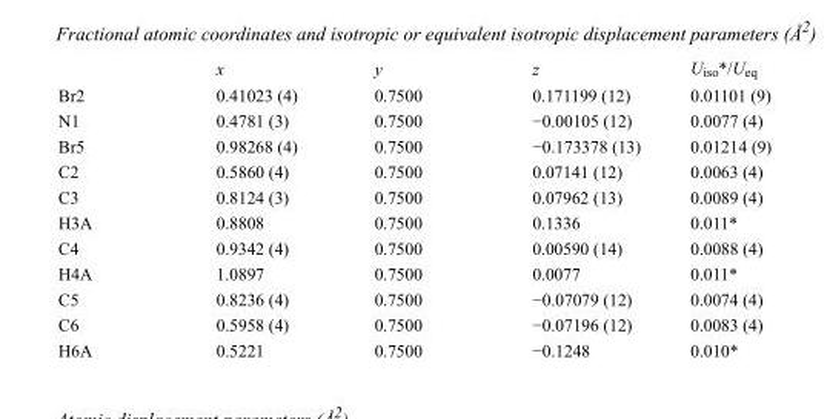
<table><thead><tr><td></td><td>x</td><td>y</td><td>z</td><td>U<sub>iso</sub>*/U<sub>eq</sub></td></tr></thead><tbody><tr><td>Br2</td><td>0.41023 (4)</td><td>0.7500</td><td>0.171199 (12)</td><td>0.01101 (9)</td></tr><tr><td>N1</td><td>0.4781 (3)</td><td>0.7500</td><td>−0.00105 (12)</td><td>0.0077 (4)</td></tr><tr><td>Br5</td><td>0.98268 (4)</td><td>0.7500</td><td>−0.173378 (13)</td><td>0.01214 (9)</td></tr><tr><td>C2</td><td>0.5860 (4)</td><td>0.7500</td><td>0.07141 (12)</td><td>0.0063 (4)</td></tr><tr><td>C3</td><td>0.8124 (3)</td><td>0.7500</td><td>0.07962 (13)</td><td>0.0089 (4)</td></tr><tr><td>H3A</td><td>0.8808</td><td>0.7500</td><td>0.1336</td><td>0.011*</td></tr><tr><td>C4</td><td>0.9342 (4)</td><td>0.7500</td><td>0.00590 (14)</td><td>0.0088 (4)</td></tr><tr><td>H4A</td><td>1.0897</td><td>0.7500</td><td>0.0077</td><td>0.011*</td></tr><tr><td>C5</td><td>0.8236 (4)</td><td>0.7500</td><td>−0.07079 (12)</td><td>0.0074 (4)</td></tr><tr><td>C6</td><td>0.5958 (4)</td><td>0.7500</td><td>−0.07196 (12)</td><td>0.0083 (4)</td></tr><tr><td>H6A</td><td>0.5221</td><td>0.7500</td><td>−0.1248</td><td>0.010*</td></tr></tbody></table>